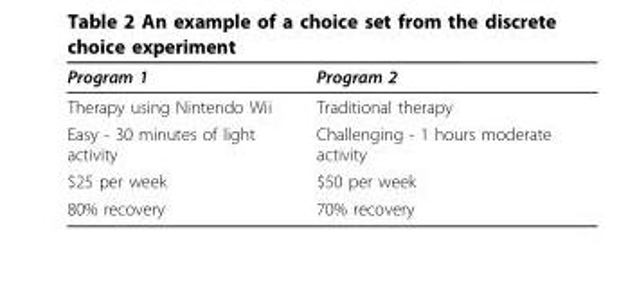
<table><thead><tr><td>Program 1</td><td>Program 2</td></tr></thead><tbody><tr><td>Therapy using Nintendo Wii</td><td>Traditional therapy</td></tr><tr><td>Easy - 30 minutes of light activity</td><td>Challenging - 1 hours moderate activity</td></tr><tr><td>$25 per week</td><td>$50 per week</td></tr><tr><td>80% recovery</td><td>70% recovery</td></tr></tbody></table>